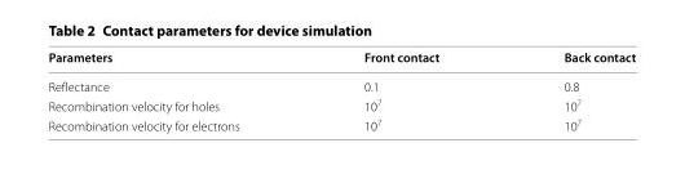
<table><thead><tr><td>Parameters</td><td>Front contact</td><td>Back contact</td></tr></thead><tbody><tr><td>Reflectance</td><td>0.1</td><td>0.8</td></tr><tr><td>Recombination velocity for holes</td><td>10<sup>7</sup></td><td>10<sup>7</sup></td></tr><tr><td>Recombination velocity for electrons</td><td>10<sup>7</sup></td><td>10<sup>7</sup></td></tr></tbody></table>